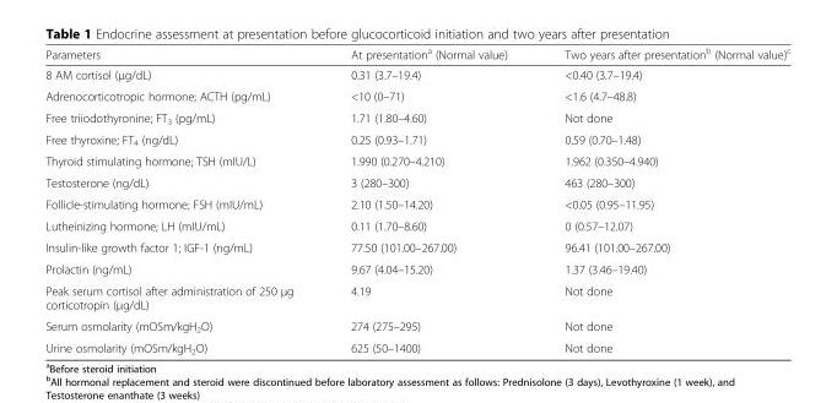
<table><thead><tr><td>Parameters</td><td>At presentation<sup>a</sup> (Normal value)</td><td>Two years after presentation<sup>b</sup> (Normal value)<sup>c</sup></td></tr></thead><tbody><tr><td>8 AM cortisol (μg/dL)</td><td>0.31 (3.7–19.4)</td><td>&lt;0.40 (3.7–19.4)</td></tr><tr><td>Adrenocorticotropic hormone; ACTH (pg/mL)</td><td>&lt;10 (0–71)</td><td>&lt;1.6 (4.7–48.8)</td></tr><tr><td>Free triiodothyronine; FT<sub>3</sub> (pg/mL)</td><td>1.71 (1.80–4.60)</td><td>Not done</td></tr><tr><td>Free thyroxine; FT<sub>4</sub> (ng/dL)</td><td>0.25 (0.93–1.71)</td><td>0.59 (0.70–1.48)</td></tr><tr><td>Thyroid stimulating hormone; TSH (mIU/L)</td><td>1.990 (0.270–4.210)</td><td>1.962 (0.350–4.940)</td></tr><tr><td>Testosterone (ng/dL)</td><td>3 (280–300)</td><td>463 (280–300)</td></tr><tr><td>Follicle-stimulating hormone; FSH (mIU/mL)</td><td>2.10 (1.50–14.20)</td><td>&lt;0.05 (0.95–11.95)</td></tr><tr><td>Lutheinizing hormone; LH (mIU/mL)</td><td>0.11 (1.70–8.60)</td><td>0 (0.57–12.07)</td></tr><tr><td>Insulin-like growth factor 1; IGF-1 (ng/mL)</td><td>77.50 (101.00–267.00)</td><td>96.41 (101.00–267.00)</td></tr><tr><td>Prolactin (ng/mL)</td><td>9.67 (4.04–15.20)</td><td>1.37 (3.46–19.40)</td></tr><tr><td>Peak serum cortisol after administration of 250 μg corticotropin (μg/dL)</td><td>4.19</td><td>Not done</td></tr><tr><td>Serum osmolarity (mOSm/kgH<sub>2</sub>O)</td><td>274 (275–295)</td><td>Not done</td></tr><tr><td>Urine osmolarity (mOSm/kgH<sub>2</sub>O)</td><td>625 (50–1400)</td><td>Not done</td></tr></tbody></table>